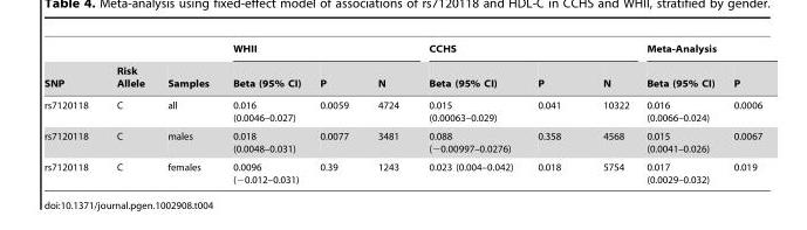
<table><thead><tr><td rowspan="2">SNP</td><td rowspan="2">Risk Allele</td><td rowspan="2">Samples</td><td colspan="3">WHII</td><td colspan="3">CCHS</td><td colspan="2">Meta-Analysis</td></tr><tr><td>Beta (95% CI)</td><td>P</td><td>N</td><td>Beta (95% CI)</td><td>P</td><td>N</td><td>Beta (95% CI)</td><td>P</td></tr></thead><tbody><tr><td>rs7120118</td><td>C</td><td>all</td><td>0.016 (0.0046–0.027)</td><td>0.0059</td><td>4724</td><td>0.015 (0.00063–0.029)</td><td>0.041</td><td>10322</td><td>0.016 (0.0066–0.024)</td><td>0.0006</td></tr><tr><td>rs7120118</td><td>C</td><td>males</td><td>0.018 (0.0048–0.031)</td><td>0.0077</td><td>3481</td><td>0.088 (−0.00997–0.0276)</td><td>0.358</td><td>4568</td><td>0.015 (0.0041–0.026)</td><td>0.0067</td></tr><tr><td>rs7120118</td><td>C</td><td>females</td><td>0.0096 (−0.012–0.031)</td><td>0.39</td><td>1243</td><td>0.023 (0.004–0.042)</td><td>0.018</td><td>5754</td><td>0.017 (0.0029–0.032)</td><td>0.019</td></tr></tbody></table>